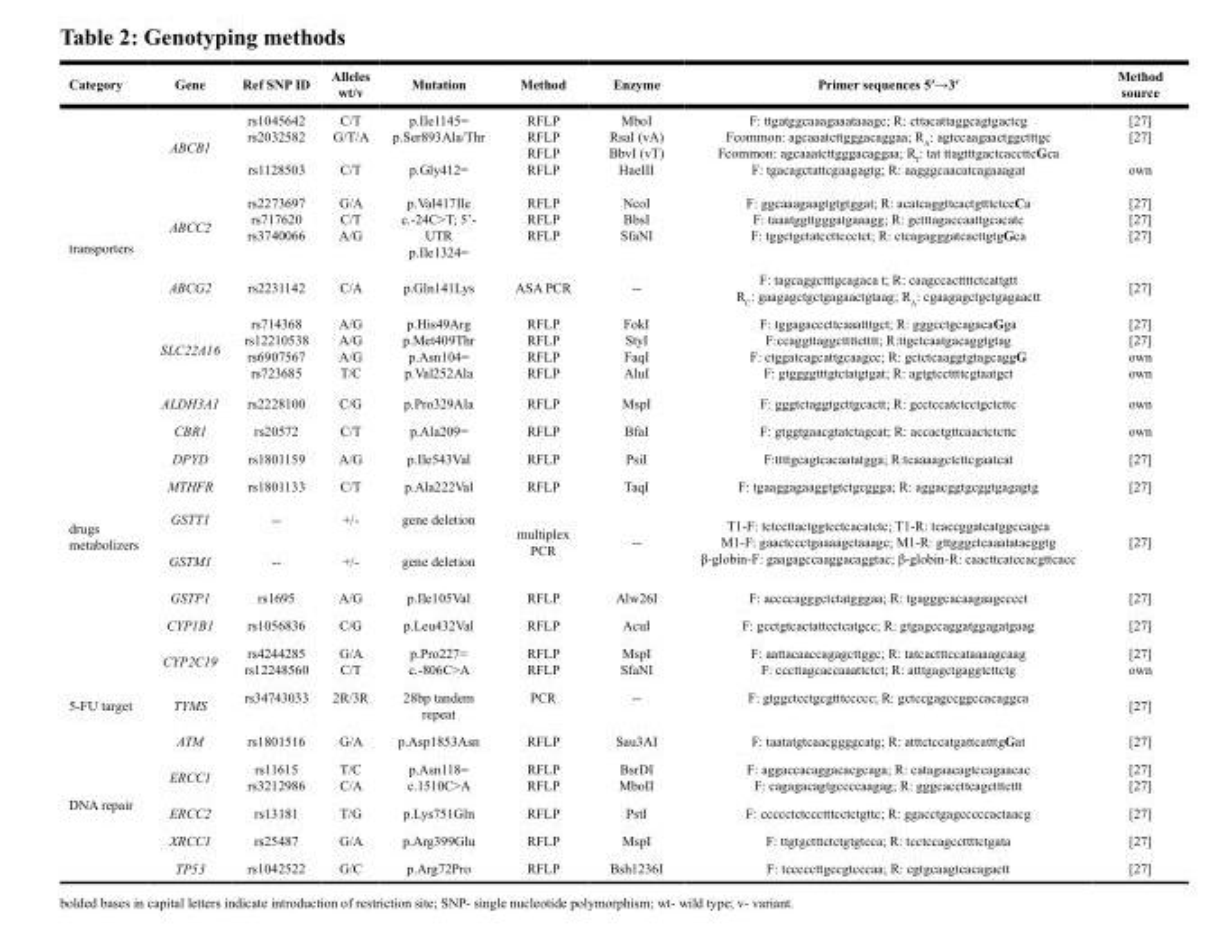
<table><thead><tr><td>Category</td><td>Gene</td><td>Ref SNP ID</td><td>Alleles wt/v</td><td>Mutation</td><td>Method</td><td>Enzyme</td><td>Primer sequences 5′→3′</td><td>Method source</td></tr></thead><tbody><tr><td rowspan="4">transporters</td><td>ABCB1</td><td>rs1045642 rs2032582 rs1128503</td><td>C/T G/T/A C/T</td><td>p.Ile1145= p.Ser893Ala/Thr p.Gly412=</td><td>RFLP RFLP RFLP RFLP</td><td>MboI RsaI (vA) BbvI (vT) HaeIII</td><td>F: ttgatggcaaagaaataaagc; R: cttacattaggcagtgactcg Fcommon: agcaaatcttgggacaggaa; RA: agtccaagaactggctttgc Fcommon: agcaaatcttgggacaggaa; RT: tat ttagtttgactcaccttcGca F: tgacagctattcgaagagtg; R: aagggcaacatcagaaagat</td><td>[27] [27] own</td></tr><tr><td>ABCC2</td><td>rs2273697 rs717620 rs3740066</td><td>G/A C/T A/G</td><td>p.Val417Ile c.-24C&gt;T; 5’- UTR p.Ile1324=</td><td>RFLP RFLP RFLP</td><td>NcoI BbsI SfaNI</td><td>F: ggcaaagaagtgtgtggat; R: acatcaggttcactgtttctccCa F: taaatggttgggatgaaagg; R: gctttagaccaattgcacatc F: tggctgctatccttccctct; R: ctcagagggatcacttgtgGca</td><td>[27] [27] [27]</td></tr><tr><td>ABCG2</td><td>rs2231142</td><td>C/A</td><td>p.Gln141Lys</td><td>ASA PCR</td><td>--</td><td>F: tagcaggctttgcagaca t; R: caagccacttttctcattgtt RC: gaagagctgctgagaactgtaag; RA: cgaagagctgctgagaactt</td><td>[27]</td></tr><tr><td>SLC22A16</td><td>rs714368 rs12210538 rs6907567 rs723685</td><td>A/G A/G A/G T/C</td><td>p.His49Arg p.Met409Thr p.Asn104= p.Val252Ala</td><td>RFLP RFLP RFLP RFLP</td><td>FokI StyI FaqI AluI</td><td>F: tggagacccttcaaatttgct; R: gggcctgcagacaGga F:ccaggttaggcttttctttt; R:ttgctcaatgacaggtgtag F: ctggatcagcattgcaagcc; R: gctctcaaggtgtagcaggG F: gtggggtttgtctatgtgat; R: agtgtccttttcgtaatgct</td><td>[27] [27] own own</td></tr><tr><td rowspan="9">drugs metabolizers</td><td>ALDH3A1</td><td>rs2228100</td><td>C/G</td><td>p.Pro329Ala</td><td>RFLP</td><td>MspI</td><td>F: gggtctaggtgcttgcactt; R: gcctccatctcctgctcttc</td><td>own</td></tr><tr><td>CBR1</td><td>rs20572</td><td>C/T</td><td>p.Ala209=</td><td>RFLP</td><td>BfaI</td><td>F: gtggtgaacgtatctagcat; R: accactgttcaactctcttc</td><td>own</td></tr><tr><td>DPYD</td><td>rs1801159</td><td>A/G</td><td>p.Ile543Val</td><td>RFLP</td><td>PsiI</td><td>F:ttttgcagtcacaatatgga; R:tcaaaagctcttcgaatcat</td><td>[27]</td></tr><tr><td>MTHFR</td><td>rs1801133</td><td>C/T</td><td>p.Ala222Val</td><td>RFLP</td><td>TaqI</td><td>F: tgaaggagaaggtgtctgcggga; R: aggacggtgcggtgagagtg</td><td>[27]</td></tr><tr><td>GSTT1</td><td>--</td><td>+/-</td><td>gene deletion</td><td rowspan="2">multiplex PCR</td><td rowspan="2">--</td><td rowspan="2">T1-F: tctccttactggtcctcacatctc; T1-R: tcaccggatcatggccagca M1-F: gaactccctgaaaagctaaagc; M1-R: gttgggctcaaatatacggtg β-globin-F: gaagagccaaggacaggtac; β-globin-R: caacttcatccacgttcacc</td><td rowspan="2">[27]</td></tr><tr><td>GSTM1</td><td>--</td><td>+/-</td><td>gene deletion</td></tr><tr><td>GSTP1</td><td>rs1695</td><td>A/G</td><td>p.Ile105Val</td><td>RFLP</td><td>Alw26I</td><td>F: accccagggctctatgggaa; R: tgagggcacaagaagcccct</td><td>[27]</td></tr><tr><td>CYP1B1</td><td>rs1056836</td><td>C/G</td><td>p.Leu432Val</td><td>RFLP</td><td>AcuI</td><td>F: gcctgtcactattcctcatgcc; R: gtgagccaggatggagatgaag</td><td>[27]</td></tr><tr><td>CYP2C19</td><td>rs4244285 rs12248560</td><td>G/A C/T</td><td>p.Pro227= c.-806C&gt;A</td><td>RFLP RFLP</td><td>MspI SfaNI</td><td>F: aattacaaccagagcttggc; R: tatcactttccataaaagcaag F: cccttagcaccaaattctct; R: atttgagctgaggtcttctg</td><td>[27] own</td></tr><tr><td>5-FU target</td><td>TYMS</td><td>rs34743033</td><td>2R/3R</td><td>28bp tandem repeat</td><td>PCR</td><td>--</td><td>F: gtggctcctgcgtttccccc; R: gctccgagccggccacaggca</td><td>[27]</td></tr><tr><td rowspan="5">DNA repair</td><td>ATM</td><td>rs1801516</td><td>G/A</td><td>p.Asp1853Asn</td><td>RFLP</td><td>Sau3AI</td><td>F: taatatgtcaacggggcatg; R: atttctccatgattcatttgGat</td><td>[27]</td></tr><tr><td>ERCC1</td><td>rs11615 rs3212986</td><td>T/C C/A</td><td>p.Asn118= c.1510C&gt;A</td><td>RFLP RFLP</td><td>BsrDI MboII</td><td>F: aggaccacaggacacgcaga; R: catagaacagtccagaacac F: cagagacagtgccccaagag; R: gggcaccttcagctttcttt</td><td>[27] [27]</td></tr><tr><td>ERCC2</td><td>rs13181</td><td>T/G</td><td>p.Lys751Gln</td><td>RFLP</td><td>PstI</td><td>F: ccccctctccctttcctctgttc; R: ggacctgagcccccactaacg</td><td>[27]</td></tr><tr><td>XRCC1</td><td>rs25487</td><td>G/A</td><td>p.Arg399Glu</td><td>RFLP</td><td>MspI</td><td>F: ttgtgctttctctgtgtcca; R: tcctccagccttttctgata</td><td>[27]</td></tr><tr><td>TP53</td><td>rs1042522</td><td>G/C</td><td>p.Arg72Pro</td><td>RFLP</td><td>Bsh1236I</td><td>F: tcccccttgccgtcccaa; R: cgtgcaagtcacagactt</td><td>[27]</td></tr></tbody></table>